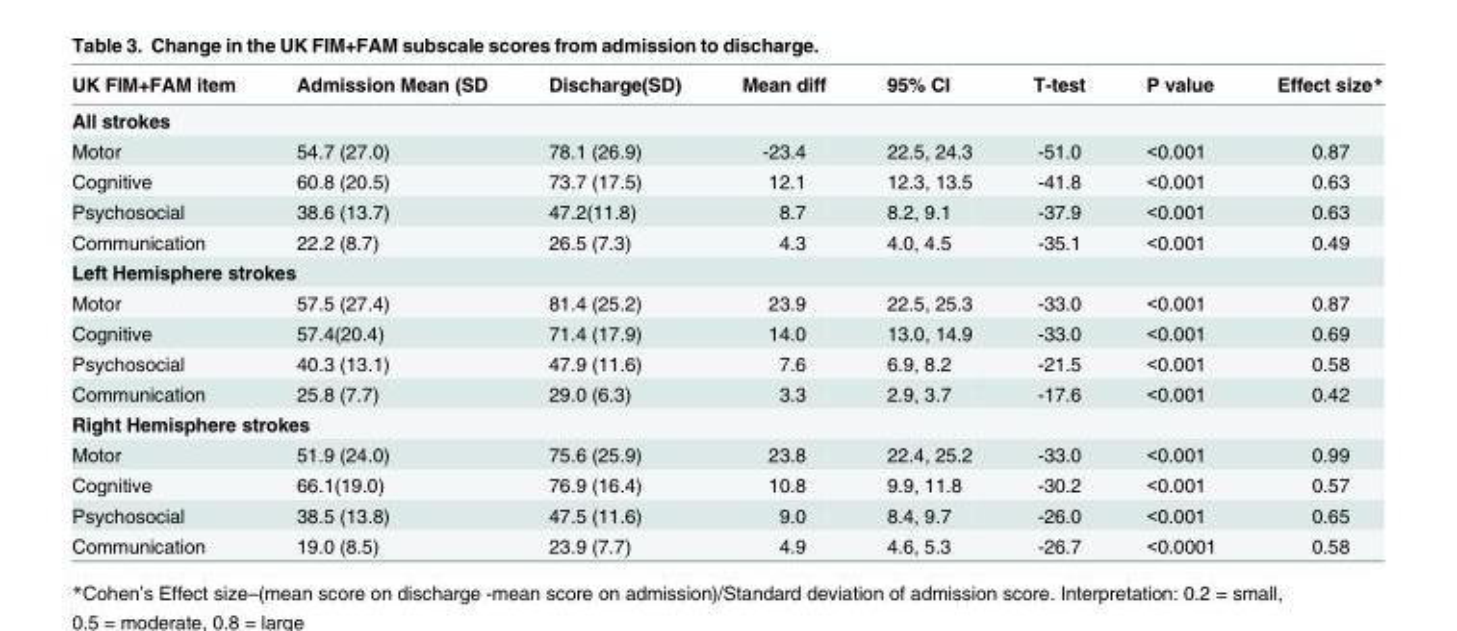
<table><thead><tr><td>UK FIM+FAM item</td><td>Admission Mean (SD</td><td>Discharge(SD)</td><td>Mean diff</td><td>95% CI</td><td>T-test</td><td>P value</td><td>Effect size*</td></tr></thead><tbody><tr><td colspan="8">All strokes</td></tr><tr><td>Motor</td><td>54.7 (27.0)</td><td>78.1 (26.9)</td><td>-23.4</td><td>22.5, 24.3</td><td>-51.0</td><td>&lt;0.001</td><td>0.87</td></tr><tr><td>Cognitive</td><td>60.8 (20.5)</td><td>73.7 (17.5)</td><td>12.1</td><td>12.3, 13.5</td><td>-41.8</td><td>&lt;0.001</td><td>0.63</td></tr><tr><td>Psychosocial</td><td>38.6 (13.7)</td><td>47.2(11.8)</td><td>8.7</td><td>8.2, 9.1</td><td>-37.9</td><td>&lt;0.001</td><td>0.63</td></tr><tr><td>Communication</td><td>22.2 (8.7)</td><td>26.5 (7.3)</td><td>4.3</td><td>4.0, 4.5</td><td>-35.1</td><td>&lt;0.001</td><td>0.49</td></tr><tr><td colspan="8">Left Hemisphere strokes</td></tr><tr><td>Motor</td><td>57.5 (27.4)</td><td>81.4 (25.2)</td><td>23.9</td><td>22.5, 25.3</td><td>-33.0</td><td>&lt;0.001</td><td>0.87</td></tr><tr><td>Cognitive</td><td>57.4(20.4)</td><td>71.4 (17.9)</td><td>14.0</td><td>13.0, 14.9</td><td>-33.0</td><td>&lt;0.001</td><td>0.69</td></tr><tr><td>Psychosocial</td><td>40.3 (13.1)</td><td>47.9 (11.6)</td><td>7.6</td><td>6.9, 8.2</td><td>-21.5</td><td>&lt;0.001</td><td>0.58</td></tr><tr><td>Communication</td><td>25.8 (7.7)</td><td>29.0 (6.3)</td><td>3.3</td><td>2.9, 3.7</td><td>-17.6</td><td>&lt;0.001</td><td>0.42</td></tr><tr><td colspan="8">Right Hemisphere strokes</td></tr><tr><td>Motor</td><td>51.9 (24.0)</td><td>75.6 (25.9)</td><td>23.8</td><td>22.4, 25.2</td><td>-33.0</td><td>&lt;0.001</td><td>0.99</td></tr><tr><td>Cognitive</td><td>66.1(19.0)</td><td>76.9 (16.4)</td><td>10.8</td><td>9.9, 11.8</td><td>-30.2</td><td>&lt;0.001</td><td>0.57</td></tr><tr><td>Psychosocial</td><td>38.5 (13.8)</td><td>47.5 (11.6)</td><td>9.0</td><td>8.4, 9.7</td><td>-26.0</td><td>&lt;0.001</td><td>0.65</td></tr><tr><td>Communication</td><td>19.0 (8.5)</td><td>23.9 (7.7)</td><td>4.9</td><td>4.6, 5.3</td><td>-26.7</td><td>&lt;0.0001</td><td>0.58</td></tr></tbody></table>